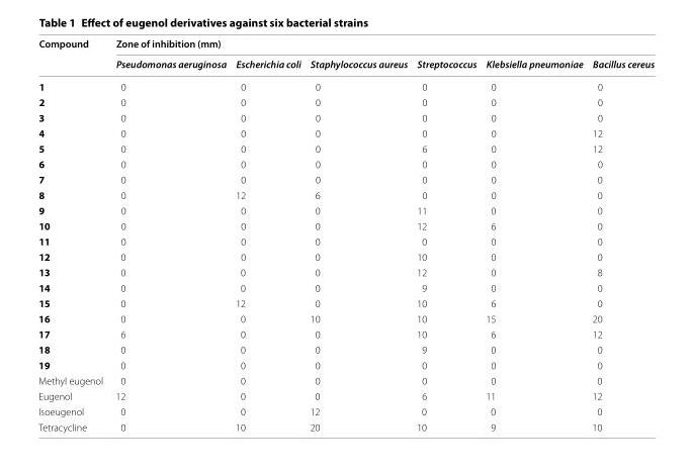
<table><thead><tr><td rowspan="2">Compound</td><td colspan="6">Zone of inhibition (mm)</td></tr><tr><td>Pseudomonas aeruginosa</td><td>Escherichia coli</td><td>Staphylococcus aureus</td><td>Streptococcus</td><td>Klebsiella pneumoniae</td><td>Bacillus cereus</td></tr></thead><tbody><tr><td>1</td><td>0</td><td>0</td><td>0</td><td>0</td><td>0</td><td>0</td></tr><tr><td>2</td><td>0</td><td>0</td><td>0</td><td>0</td><td>0</td><td>0</td></tr><tr><td>3</td><td>0</td><td>0</td><td>0</td><td>0</td><td>0</td><td>0</td></tr><tr><td>4</td><td>0</td><td>0</td><td>0</td><td>0</td><td>0</td><td>12</td></tr><tr><td>5</td><td>0</td><td>0</td><td>0</td><td>6</td><td>0</td><td>12</td></tr><tr><td>6</td><td>0</td><td>0</td><td>0</td><td>0</td><td>0</td><td>0</td></tr><tr><td>7</td><td>0</td><td>0</td><td>0</td><td>0</td><td>0</td><td>0</td></tr><tr><td>8</td><td>0</td><td>12</td><td>6</td><td>0</td><td>0</td><td>0</td></tr><tr><td>9</td><td>0</td><td>0</td><td>0</td><td>11</td><td>0</td><td>0</td></tr><tr><td>10</td><td>0</td><td>0</td><td>0</td><td>12</td><td>6</td><td>0</td></tr><tr><td>11</td><td>0</td><td>0</td><td>0</td><td>0</td><td>0</td><td>0</td></tr><tr><td>12</td><td>0</td><td>0</td><td>0</td><td>10</td><td>0</td><td>0</td></tr><tr><td>13</td><td>0</td><td>0</td><td>0</td><td>12</td><td>0</td><td>8</td></tr><tr><td>14</td><td>0</td><td>0</td><td>0</td><td>9</td><td>0</td><td>0</td></tr><tr><td>15</td><td>0</td><td>12</td><td>0</td><td>10</td><td>6</td><td>0</td></tr><tr><td>16</td><td>0</td><td>0</td><td>10</td><td>10</td><td>15</td><td>20</td></tr><tr><td>17</td><td>6</td><td>0</td><td>0</td><td>10</td><td>6</td><td>12</td></tr><tr><td>18</td><td>0</td><td>0</td><td>0</td><td>9</td><td>0</td><td>0</td></tr><tr><td>19</td><td>0</td><td>0</td><td>0</td><td>0</td><td>0</td><td>0</td></tr><tr><td>Methyl eugenol</td><td>0</td><td>0</td><td>0</td><td>0</td><td>0</td><td>0</td></tr><tr><td>Eugenol</td><td>12</td><td>0</td><td>0</td><td>6</td><td>11</td><td>12</td></tr><tr><td>Isoeugenol</td><td>0</td><td>0</td><td>12</td><td>0</td><td>0</td><td>0</td></tr><tr><td>Tetracycline</td><td>0</td><td>10</td><td>20</td><td>10</td><td>9</td><td>10</td></tr></tbody></table>